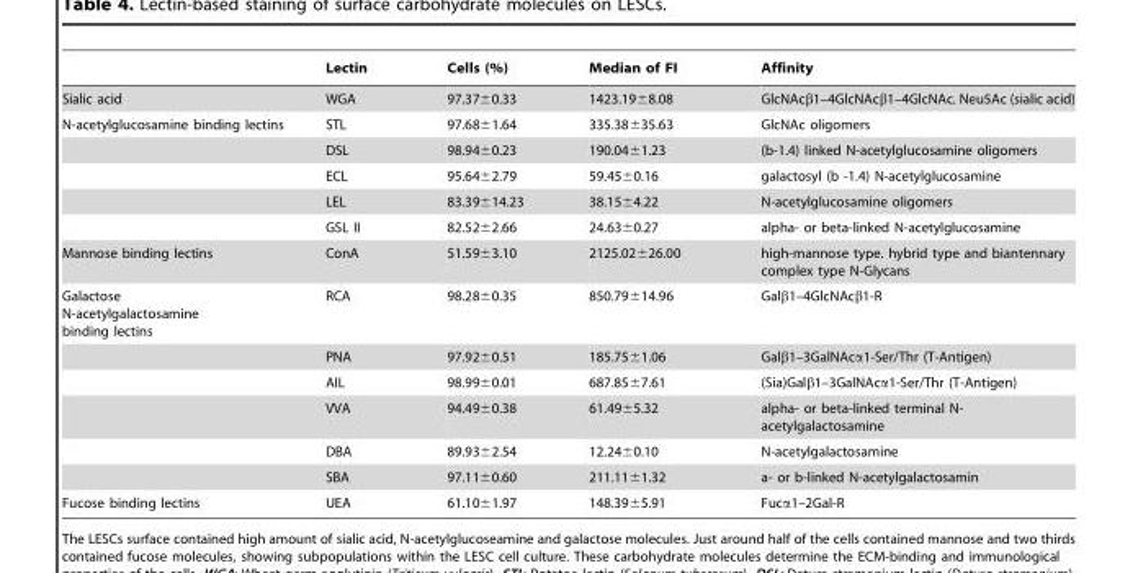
<table><thead><tr><td></td><td>Lectin</td><td>Cells (%)</td><td>Median of FI</td><td>Affinity</td></tr></thead><tbody><tr><td>Sialic acid</td><td>WGA</td><td>97.37±0.33</td><td>1423.19±8.08</td><td>GlcNAcβ1–4GlcNAcβ1–4GlcNAc. Neu5Ac (sialic acid)</td></tr><tr><td rowspan="5">N-acetylglucosamine binding lectins</td><td>STL</td><td>97.68±1.64</td><td>335.38±35.63</td><td>GlcNAc oligomers</td></tr><tr><td>DSL</td><td>98.94±0.23</td><td>190.04±1.23</td><td>(b-1.4) linked N-acetylglucosamine oligomers</td></tr><tr><td>ECL</td><td>95.64±2.79</td><td>59.45±0.16</td><td>galactosyl (b -1.4) N-acetylglucosamine</td></tr><tr><td>LEL</td><td>83.39±14.23</td><td>38.15±4.22</td><td>N-acetylglucosamine oligomers</td></tr><tr><td>GSL II</td><td>82.52±2.66</td><td>24.63±0.27</td><td>alpha- or beta-linked N-acetylglucosamine</td></tr><tr><td>Mannose binding lectins</td><td>ConA</td><td>51.59±3.10</td><td>2125.02±26.00</td><td>high-mannose type. hybrid type and biantennary complex type N-Glycans</td></tr><tr><td rowspan="6">Galactose N-acetylgalactosamine binding lectins</td><td>RCA</td><td>98.28±0.35</td><td>850.79±14.96</td><td>Galβ1–4GlcNAcβ1-R</td></tr><tr><td>PNA</td><td>97.92±0.51</td><td>185.75±1.06</td><td>Galβ1–3GalNAcα1-Ser/Thr (T-Antigen)</td></tr><tr><td>AIL</td><td>98.99±0.01</td><td>687.85±7.61</td><td>(Sia)Galβ1–3GalNAcα1-Ser/Thr (T-Antigen)</td></tr><tr><td>VVA</td><td>94.49±0.38</td><td>61.49±5.32</td><td>alpha- or beta-linked terminal N- acetylgalactosamine</td></tr><tr><td>DBA</td><td>89.93±2.54</td><td>12.24±0.10</td><td>N-acetylgalactosamine</td></tr><tr><td>SBA</td><td>97.11±0.60</td><td>211.11±1.32</td><td>a- or b-linked N-acetylgalactosamin</td></tr><tr><td>Fucose binding lectins</td><td>UEA</td><td>61.10±1.97</td><td>148.39±5.91</td><td>Fucα1–2Gal-R</td></tr></tbody></table>